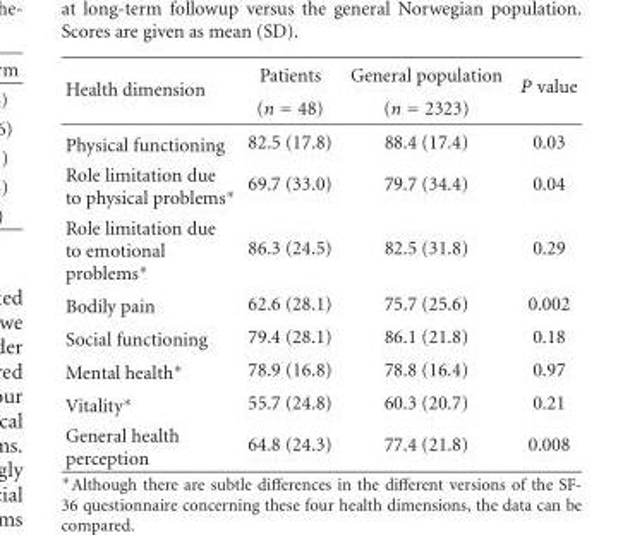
<table><thead><tr><td rowspan="2">Health dimension</td><td rowspan="2">Patients (n = 48)</td><td rowspan="2">General population (n = 2323)</td><td rowspan="2">P value</td></tr><tr></tr></thead><tbody><tr><td>Physical functioning</td><td>82.5 (17.8)</td><td>88.4 (17.4)</td><td>0.03</td></tr><tr><td>Role limitation due to physical problems∗</td><td>69.7 (33.0)</td><td>79.7 (34.4)</td><td>0.04</td></tr><tr><td>Role limitation due to emotional problems∗</td><td>86.3 (24.5)</td><td>82.5 (31.8)</td><td>0.29</td></tr><tr><td>Bodily pain</td><td>62.6 (28.1)</td><td>75.7 (25.6)</td><td>0.002</td></tr><tr><td>Social functioning</td><td>79.4 (28.1)</td><td>86.1 (21.8)</td><td>0.18</td></tr><tr><td>Mental health∗</td><td>78.9 (16.8)</td><td>78.8 (16.4)</td><td>0.97</td></tr><tr><td>Vitality∗</td><td>55.7 (24.8)</td><td>60.3 (20.7)</td><td>0.21</td></tr><tr><td>General health perception</td><td>64.8 (24.3)</td><td>77.4 (21.8)</td><td>0.008</td></tr></tbody></table>